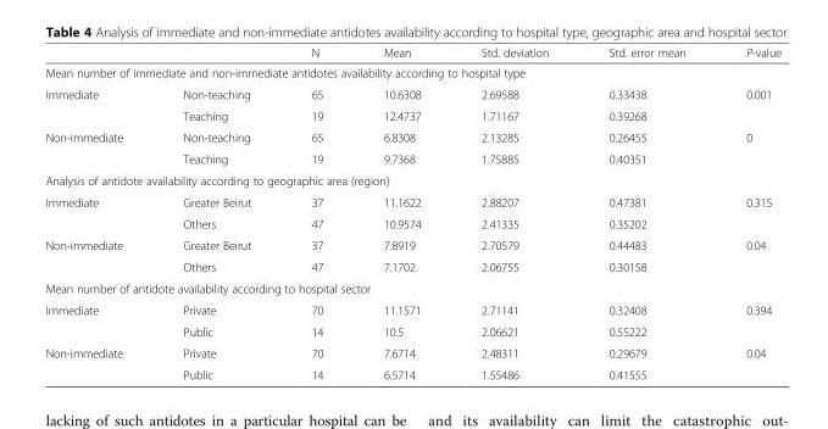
<table><thead><tr><td></td><td></td><td>N</td><td>Mean</td><td>Std. deviation</td><td>Std. error mean</td><td>P-value</td></tr></thead><tbody><tr><td colspan="7">Mean number of immediate and non-immediate antidotes availability according to hospital type</td></tr><tr><td rowspan="2">Immediate</td><td>Non-teaching</td><td>65</td><td>10.6308</td><td>2.69588</td><td>0.33438</td><td rowspan="2">0.001</td></tr><tr><td>Teaching</td><td>19</td><td>12.4737</td><td>1.71167</td><td>0.39268</td></tr><tr><td rowspan="2">Non-immediate</td><td>Non-teaching</td><td>65</td><td>6.8308</td><td>2.13285</td><td>0.26455</td><td rowspan="2">0</td></tr><tr><td>Teaching</td><td>19</td><td>9.7368</td><td>1.75885</td><td>0.40351</td></tr><tr><td colspan="7">Analysis of antidote availability according to geographic area (region)</td></tr><tr><td rowspan="2">Immediate</td><td>Greater Beirut</td><td>37</td><td>11.1622</td><td>2.88207</td><td>0.47381</td><td rowspan="2">0.315</td></tr><tr><td>Others</td><td>47</td><td>10.9574</td><td>2.41335</td><td>0.35202</td></tr><tr><td rowspan="2">Non-immediate</td><td>Greater Beirut</td><td>37</td><td>7.8919</td><td>2.70579</td><td>0.44483</td><td rowspan="2">0.04</td></tr><tr><td>Others</td><td>47</td><td>7.1702</td><td>2.06755</td><td>0.30158</td></tr><tr><td colspan="7">Mean number of antidote availability according to hospital sector</td></tr><tr><td rowspan="2">Immediate</td><td>Private</td><td>70</td><td>11.1571</td><td>2.71141</td><td>0.32408</td><td rowspan="2">0.394</td></tr><tr><td>Public</td><td>14</td><td>10.5</td><td>2.06621</td><td>0.55222</td></tr><tr><td rowspan="2">Non-immediate</td><td>Private</td><td>70</td><td>7.6714</td><td>2.48311</td><td>0.29679</td><td rowspan="2">0.04</td></tr><tr><td>Public</td><td>14</td><td>6.5714</td><td>1.55486</td><td>0.41555</td></tr></tbody></table>